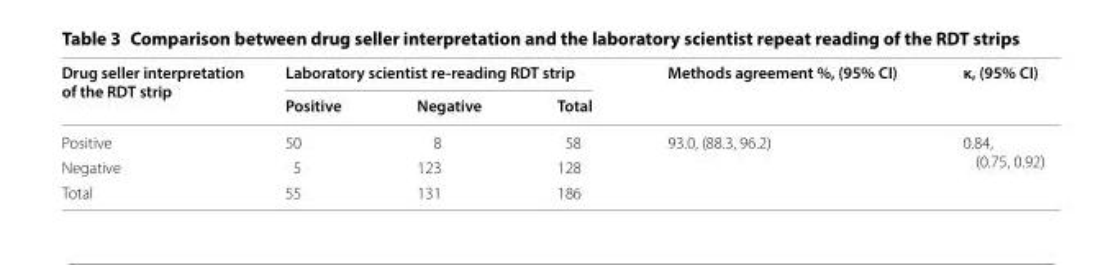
<table><thead><tr><td rowspan="2">Drug seller interpretation of the RDT strip</td><td colspan="3">Laboratory scientist re‑reading RDT strip</td><td rowspan="2">Methods agreement %, (95% CI)</td><td rowspan="2">κ, (95% CI)</td></tr><tr><td>Positive</td><td>Negative</td><td>Total</td></tr></thead><tbody><tr><td>Positive</td><td>50</td><td>8</td><td>58</td><td rowspan="3">93.0, (88.3, 96.2)</td><td rowspan="3">0.84, (0.75, 0.92)</td></tr><tr><td>Negative</td><td>5</td><td>123</td><td>128</td></tr><tr><td>Total</td><td>55</td><td>131</td><td>186</td></tr></tbody></table>